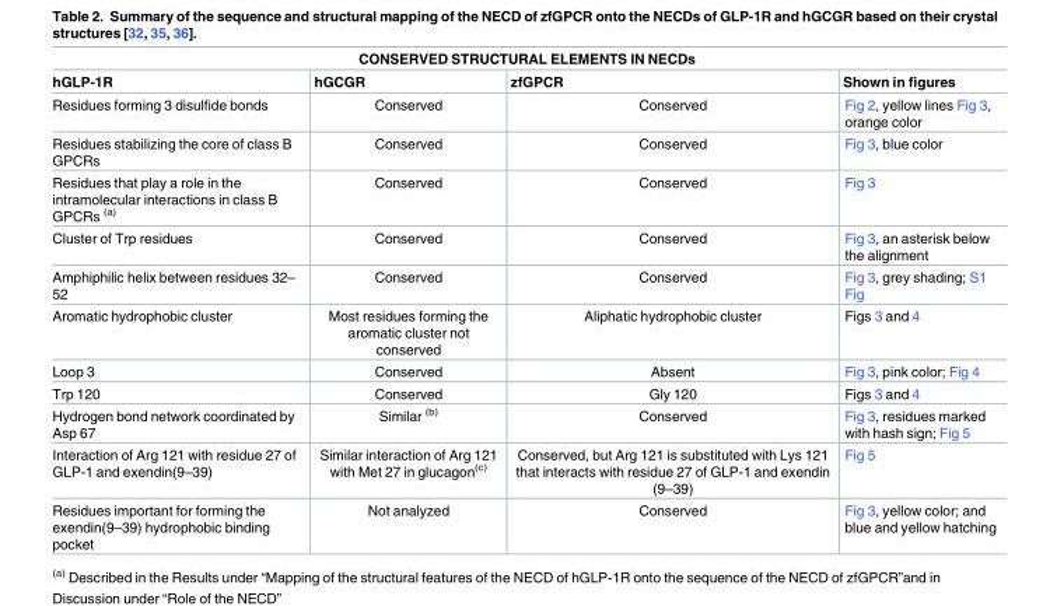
<table><thead><tr><td colspan="4">CONSERVED STRUCTURAL ELEMENTS IN NECDs</td></tr><tr><td>hGLP-1R</td><td>hGCGR</td><td>zfGPCR</td><td>Shown in figures</td></tr></thead><tbody><tr><td>Residues forming 3 disulfide bonds</td><td>Conserved</td><td>Conserved</td><td>Fig 2, yellow lines Fig 3, orange color</td></tr><tr><td>Residues stabilizing the core of class B GPCRs</td><td>Conserved</td><td>Conserved</td><td>Fig 3, blue color</td></tr><tr><td>Residues that play a role in the intramolecular interactions in class B GPCRs <sup>(a)</sup></td><td>Conserved</td><td>Conserved</td><td>Fig 3</td></tr><tr><td>Cluster of Trp residues</td><td>Conserved</td><td>Conserved</td><td>Fig 3, an asterisk below the alignment</td></tr><tr><td>Amphiphilic helix between residues 32– 52</td><td>Conserved</td><td>Conserved</td><td>Fig 3, grey shading; S1 Fig</td></tr><tr><td>Aromatic hydrophobic cluster</td><td>Most residues forming the aromatic cluster not conserved</td><td>Aliphatic hydrophobic cluster</td><td>Figs 3 and 4</td></tr><tr><td>Loop 3</td><td>Conserved</td><td>Absent</td><td>Fig 3, pink color; Fig 4</td></tr><tr><td>Trp 120</td><td>Conserved</td><td>Gly 120</td><td>Figs 3 and 4</td></tr><tr><td>Hydrogen bond network coordinated by Asp 67</td><td>Similar <sup>(b)</sup></td><td>Conserved</td><td>Fig 3, residues marked with hash sign; Fig 5</td></tr><tr><td>Interaction of Arg 121 with residue 27 of GLP-1 and exendin(9–39)</td><td>Similar interaction of Arg 121 with Met 27 in glucagon<sup>(c)</sup></td><td>Conserved, but Arg 121 is substituted with Lys 121 that interacts with residue 27 of GLP-1 and exendin (9–39)</td><td>Fig 5</td></tr><tr><td>Residues important for forming the exendin(9–39) hydrophobic binding pocket</td><td>Not analyzed</td><td>Conserved</td><td>Fig 3, yellow color; and blue and yellow hatching</td></tr></tbody></table>